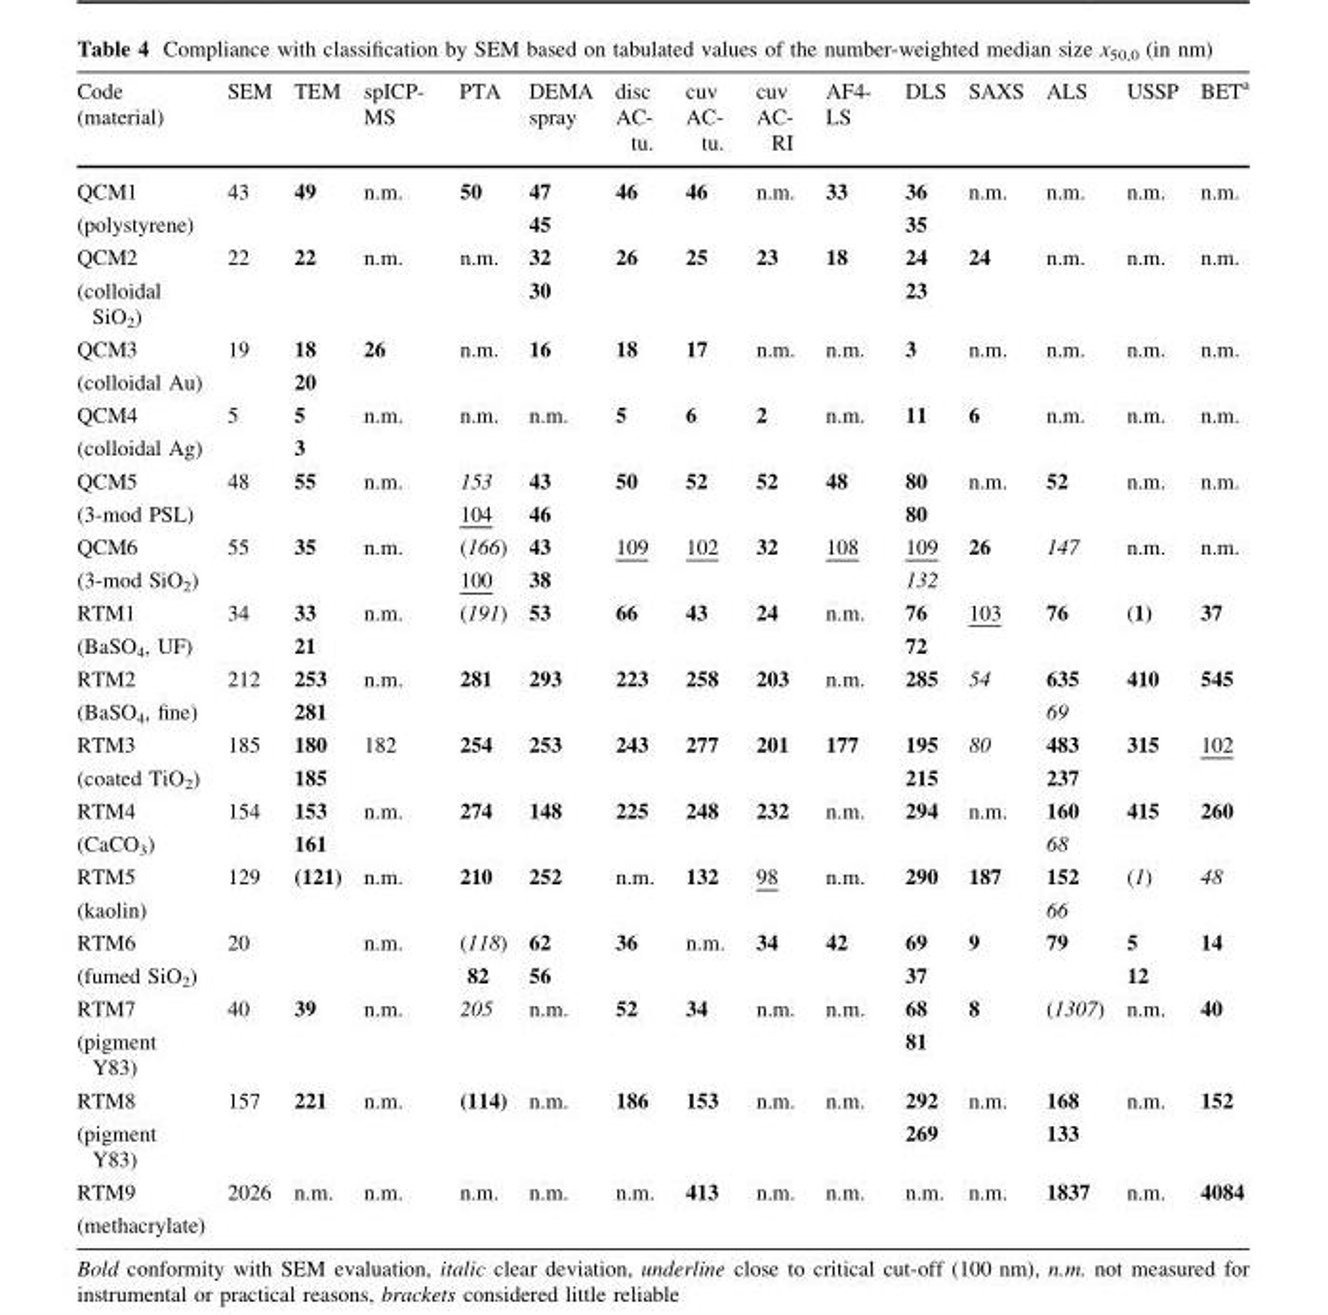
<table><thead><tr><td>Code (material)</td><td>SEM</td><td>TEM</td><td>spICP- MS</td><td>PTA</td><td>DEMA spray</td><td>disc AC- tu.</td><td>cuv AC- tu.</td><td>cuv AC- RI</td><td>AF4- LS</td><td>DLS</td><td>SAXS</td><td>ALS</td><td>USSP</td><td>BET<sup>a</sup></td></tr></thead><tbody><tr><td>QCM1 (polystyrene)</td><td>43</td><td>49</td><td>n.m.</td><td>50</td><td>47 45</td><td>46</td><td>46</td><td>n.m.</td><td>33</td><td>36 35</td><td>n.m.</td><td>n.m.</td><td>n.m.</td><td>n.m.</td></tr><tr><td>QCM2 (colloidal SiO<sub>2</sub>)</td><td>22</td><td>22</td><td>n.m.</td><td>n.m.</td><td>32 30</td><td>26</td><td>25</td><td>23</td><td>18</td><td>24 23</td><td>24</td><td>n.m.</td><td>n.m.</td><td>n.m.</td></tr><tr><td>QCM3 (colloidal Au)</td><td>19</td><td>18 20</td><td>26</td><td>n.m.</td><td>16</td><td>18</td><td>17</td><td>n.m.</td><td>n.m.</td><td>3</td><td>n.m.</td><td>n.m.</td><td>n.m.</td><td>n.m.</td></tr><tr><td>QCM4 (colloidal Ag)</td><td>5</td><td>5 3</td><td>n.m.</td><td>n.m.</td><td>n.m.</td><td>5</td><td>6</td><td>2</td><td>n.m.</td><td>11</td><td>6</td><td>n.m.</td><td>n.m.</td><td>n.m.</td></tr><tr><td>QCM5 (3-mod PSL)</td><td>48</td><td>55</td><td>n.m.</td><td>153 104</td><td>43 46</td><td>50</td><td>52</td><td>52</td><td>48</td><td>80 80</td><td>n.m.</td><td>52</td><td>n.m.</td><td>n.m.</td></tr><tr><td>QCM6 (3-mod SiO<sub>2</sub>)</td><td>55</td><td>35</td><td>n.m.</td><td>(166) 100</td><td>43 38</td><td>109</td><td>102</td><td>32</td><td>108</td><td>109 132</td><td>26</td><td>147</td><td>n.m.</td><td>n.m.</td></tr><tr><td>RTM1 (BaSO<sub>4</sub>, UF)</td><td>34</td><td>33 21</td><td>n.m.</td><td>(191)</td><td>53</td><td>66</td><td>43</td><td>24</td><td>n.m.</td><td>76 72</td><td>103</td><td>76</td><td>(1)</td><td>37</td></tr><tr><td>RTM2 (BaSO<sub>4</sub>, fine)</td><td>212</td><td>253 281</td><td>n.m.</td><td>281</td><td>293</td><td>223</td><td>258</td><td>203</td><td>n.m.</td><td>285</td><td>54</td><td>635 69</td><td>410</td><td>545</td></tr><tr><td>RTM3 (coated TiO<sub>2</sub>)</td><td>185</td><td>180 185</td><td>182</td><td>254</td><td>253</td><td>243</td><td>277</td><td>201</td><td>177</td><td>195 215</td><td>80</td><td>483 237</td><td>315</td><td>102</td></tr><tr><td>RTM4 (CaCO<sub>3</sub>)</td><td>154</td><td>153 161</td><td>n.m.</td><td>274</td><td>148</td><td>225</td><td>248</td><td>232</td><td>n.m.</td><td>294</td><td>n.m.</td><td>160 68</td><td>415</td><td>260</td></tr><tr><td>RTM5 (kaolin)</td><td>129</td><td>(121)</td><td>n.m.</td><td>210</td><td>252</td><td>n.m.</td><td>132</td><td>98</td><td>n.m.</td><td>290</td><td>187</td><td>152 66</td><td>(1)</td><td>48</td></tr><tr><td>RTM6 (fumed SiO<sub>2</sub>)</td><td>20</td><td></td><td>n.m.</td><td>(118) 82</td><td>62 56</td><td>36</td><td>n.m.</td><td>34</td><td>42</td><td>69 37</td><td>9</td><td>79</td><td>5 12</td><td>14</td></tr><tr><td>RTM7 (pigment Y83)</td><td>40</td><td>39</td><td>n.m.</td><td>205</td><td>n.m.</td><td>52</td><td>34</td><td>n.m.</td><td>n.m.</td><td>68 81</td><td>8</td><td>(1307)</td><td>n.m.</td><td>40</td></tr><tr><td>RTM8 (pigment Y83)</td><td>157</td><td>221</td><td>n.m.</td><td>(114)</td><td>n.m.</td><td>186</td><td>153</td><td>n.m.</td><td>n.m.</td><td>292 269</td><td>n.m.</td><td>168 133</td><td>n.m.</td><td>152</td></tr><tr><td>RTM9 (methacrylate)</td><td>2026</td><td>n.m.</td><td>n.m.</td><td>n.m.</td><td>n.m.</td><td>n.m.</td><td>413</td><td>n.m.</td><td>n.m.</td><td>n.m.</td><td>n.m.</td><td>1837</td><td>n.m.</td><td>4084</td></tr></tbody></table>